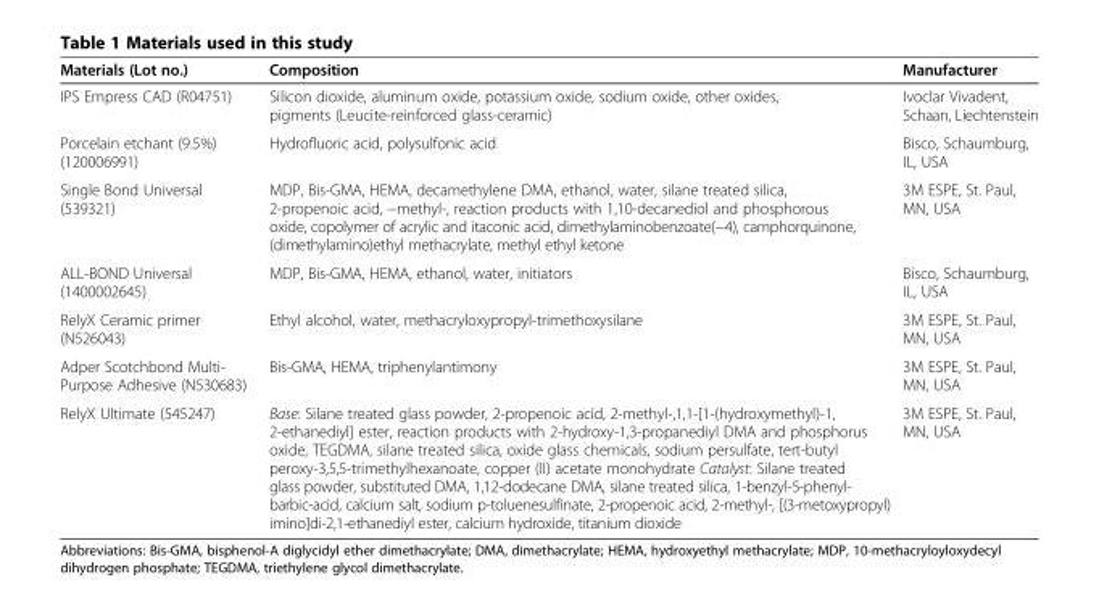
<table><thead><tr><td>Materials (Lot no.)</td><td>Composition</td><td>Manufacturer</td></tr></thead><tbody><tr><td>IPS Empress CAD (R04751)</td><td>Silicon dioxide, aluminum oxide, potassium oxide, sodium oxide, other oxides, pigments (Leucite-reinforced glass-ceramic)</td><td>Ivoclar Vivadent, Schaan, Liechtenstein</td></tr><tr><td>Porcelain etchant (9.5%) (120006991)</td><td>Hydrofluoric acid, polysulfonic acid</td><td>Bisco, Schaumburg, IL, USA</td></tr><tr><td>Single Bond Universal (539321)</td><td>MDP, Bis-GMA, HEMA, decamethylene DMA, ethanol, water, silane treated silica, 2-propenoic acid, −methyl-, reaction products with 1,10-decanediol and phosphorous oxide, copolymer of acrylic and itaconic acid, dimethylaminobenzoate(−4), camphorquinone, (dimethylamino)ethyl methacrylate, methyl ethyl ketone</td><td>3M ESPE, St. Paul, MN, USA</td></tr><tr><td>ALL-BOND Universal (1400002645)</td><td>MDP, Bis-GMA, HEMA, ethanol, water, initiators</td><td>Bisco, Schaumburg, IL, USA</td></tr><tr><td>RelyX Ceramic primer (N526043)</td><td>Ethyl alcohol, water, methacryloxypropyl-trimethoxysilane</td><td>3M ESPE, St. Paul, MN, USA</td></tr><tr><td>Adper Scotchbond Multi- Purpose Adhesive (N530683)</td><td>Bis-GMA, HEMA, triphenylantimony</td><td>3M ESPE, St. Paul, MN, USA</td></tr><tr><td>RelyX Ultimate (545247)</td><td>Base: Silane treated glass powder, 2-propenoic acid, 2-methyl-,1,1-[1-(hydroxymethyl)-1, 2-ethanediyl] ester, reaction products with 2-hydroxy-1,3-propanediyl DMA and phosphorus oxide, TEGDMA, silane treated silica, oxide glass chemicals, sodium persulfate, tert-butyl peroxy-3,5,5-trimethylhexanoate, copper (II) acetate monohydrate Catalyst: Silane treated glass powder, substituted DMA, 1,12-dodecane DMA, silane treated silica, 1-benzyl-5-phenyl- barbic-acid, calcium salt, sodium p-toluenesulfinate, 2-propenoic acid, 2-methyl-, [(3-metoxypropyl) imino]di-2,1-ethanediyl ester, calcium hydroxide, titanium dioxide</td><td>3M ESPE, St. Paul, MN, USA</td></tr></tbody></table>